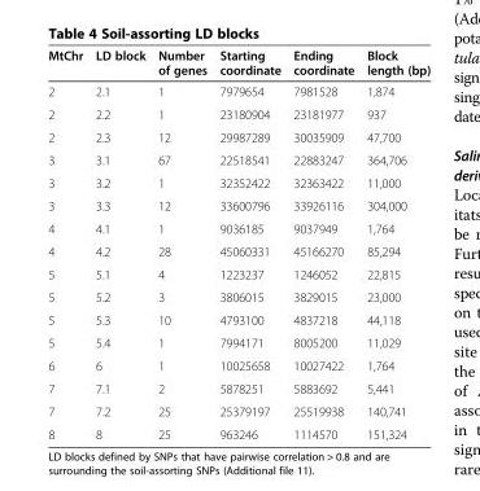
<table><thead><tr><td>MtChr</td><td>LD block</td><td>Number of genes</td><td>Starting coordinate</td><td>Ending coordinate</td><td>Block length (bp)</td></tr></thead><tbody><tr><td>2</td><td>2.1</td><td>1</td><td>7979654</td><td>7981528</td><td>1,874</td></tr><tr><td>2</td><td>2.2</td><td>1</td><td>23180904</td><td>23181977</td><td>937</td></tr><tr><td>2</td><td>2.3</td><td>12</td><td>29987289</td><td>30035909</td><td>47,700</td></tr><tr><td>3</td><td>3.1</td><td>67</td><td>22518541</td><td>22883247</td><td>364,706</td></tr><tr><td>3</td><td>3.2</td><td>1</td><td>32352422</td><td>32363422</td><td>11,000</td></tr><tr><td>3</td><td>3.3</td><td>12</td><td>33600796</td><td>33926116</td><td>304,000</td></tr><tr><td>4</td><td>4.1</td><td>1</td><td>9036185</td><td>9037949</td><td>1,764</td></tr><tr><td>4</td><td>4.2</td><td>28</td><td>45060331</td><td>45166270</td><td>85,294</td></tr><tr><td>5</td><td>5.1</td><td>4</td><td>1223237</td><td>1246052</td><td>22,815</td></tr><tr><td>5</td><td>5.2</td><td>3</td><td>3806015</td><td>3829015</td><td>23,000</td></tr><tr><td>5</td><td>5.3</td><td>10</td><td>4793100</td><td>4837218</td><td>44,118</td></tr><tr><td>5</td><td>5.4</td><td>1</td><td>7994171</td><td>8005200</td><td>11,029</td></tr><tr><td>6</td><td>6</td><td>1</td><td>10025658</td><td>10027422</td><td>1,764</td></tr><tr><td>7</td><td>7.1</td><td>2</td><td>5878251</td><td>5883692</td><td>5,441</td></tr><tr><td>7</td><td>7.2</td><td>25</td><td>25379197</td><td>25519938</td><td>140,741</td></tr><tr><td>8</td><td>8</td><td>25</td><td>963246</td><td>1114570</td><td>151,324</td></tr></tbody></table>